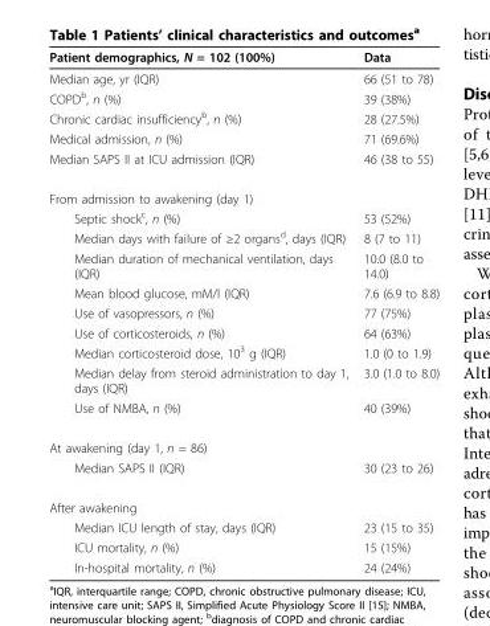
<table><thead><tr><td>Patient demographics, N = 102 (100%)</td><td>Data</td></tr></thead><tbody><tr><td>Median age, yr (IQR)</td><td>66 (51 to 78)</td></tr><tr><td>COPD<sup>b</sup>, n (%)</td><td>39 (38%)</td></tr><tr><td>Chronic cardiac insufficiency<sup>b</sup>, n (%)</td><td>28 (27.5%)</td></tr><tr><td>Medical admission, n (%)</td><td>71 (69.6%)</td></tr><tr><td>Median SAPS II at ICU admission (IQR)</td><td>46 (38 to 55)</td></tr><tr><td colspan="2">From admission to awakening (day 1)</td></tr><tr><td>Septic shock<sup>c</sup>, n (%)</td><td>53 (52%)</td></tr><tr><td>Median days with failure of ≥2 organs<sup>d</sup>, days (IQR)</td><td>8 (7 to 11)</td></tr><tr><td>Median duration of mechanical ventilation, days (IQR)</td><td>10.0 (8.0 to 14.0)</td></tr><tr><td>Mean blood glucose, mM/l (IQR)</td><td>7.6 (6.9 to 8.8)</td></tr><tr><td>Use of vasopressors, n (%)</td><td>77 (75%)</td></tr><tr><td>Use of corticosteroids, n (%)</td><td>64 (63%)</td></tr><tr><td>Median corticosteroid dose, 10<sup>3</sup> g (IQR)</td><td>1.0 (0 to 1.9)</td></tr><tr><td>Median delay from steroid administration to day 1, days (IQR)</td><td>3.0 (1.0 to 8.0)</td></tr><tr><td>Use of NMBA, n (%)</td><td>40 (39%)</td></tr><tr><td colspan="2">At awakening (day 1, n = 86)</td></tr><tr><td>Median SAPS II (IQR)</td><td>30 (23 to 26)</td></tr><tr><td colspan="2">After awakening</td></tr><tr><td>Median ICU length of stay, days (IQR)</td><td>23 (15 to 35)</td></tr><tr><td>ICU mortality, n (%)</td><td>15 (15%)</td></tr><tr><td>In-hospital mortality, n (%)</td><td>24 (24%)</td></tr></tbody></table>